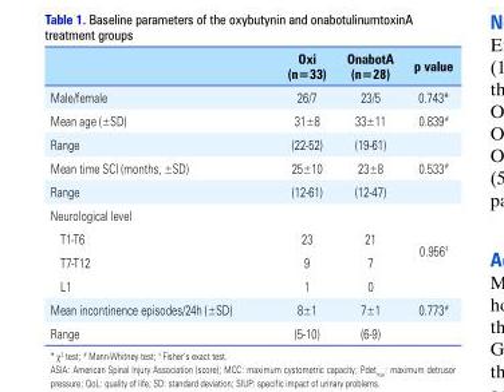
<table><thead><tr><td></td><td>Oxi (n=33)</td><td>OnabotA (n=28)</td><td>p value</td></tr></thead><tbody><tr><td>Male/female</td><td>26/7</td><td>23/5</td><td>0.743*</td></tr><tr><td>Mean age (±SD)</td><td>31±8</td><td>33±11</td><td>0.839<sup>#</sup></td></tr><tr><td>Range</td><td>(22-52)</td><td>(19-61)</td><td></td></tr><tr><td>Mean time SCI (months, ±SD)</td><td>25±10</td><td>23±8</td><td>0.533<sup>#</sup></td></tr><tr><td>Range</td><td>(12-61)</td><td>(12-47)</td><td></td></tr><tr><td colspan="3">Neurological level</td><td rowspan="4">0.956<sup>‡</sup></td></tr><tr><td>T1-T6</td><td>23</td><td>21</td></tr><tr><td>T7-T12</td><td>9</td><td>7</td></tr><tr><td>L1</td><td>1</td><td>0</td></tr><tr><td>Mean incontinence episodes/24h (±SD)</td><td>8±1</td><td>7±1</td><td>0.773<sup>#</sup></td></tr><tr><td>Range</td><td>(5-10)</td><td>(6-9)</td><td></td></tr></tbody></table>